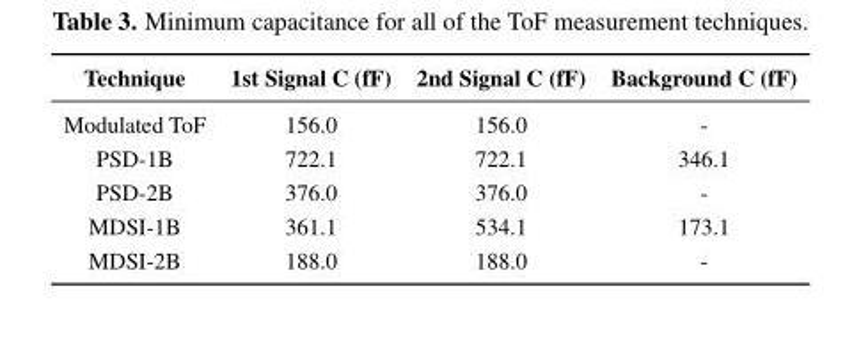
<table><thead><tr><td>Technique</td><td>1st Signal C (fF)</td><td>2nd Signal C (fF)</td><td>Background C (fF)</td></tr></thead><tbody><tr><td>Modulated ToF</td><td>156.0</td><td>156.0</td><td>-</td></tr><tr><td>PSD-1B</td><td>722.1</td><td>722.1</td><td>346.1</td></tr><tr><td>PSD-2B</td><td>376.0</td><td>376.0</td><td>-</td></tr><tr><td>MDSI-1B</td><td>361.1</td><td>534.1</td><td>173.1</td></tr><tr><td>MDSI-2B</td><td>188.0</td><td>188.0</td><td>-</td></tr></tbody></table>